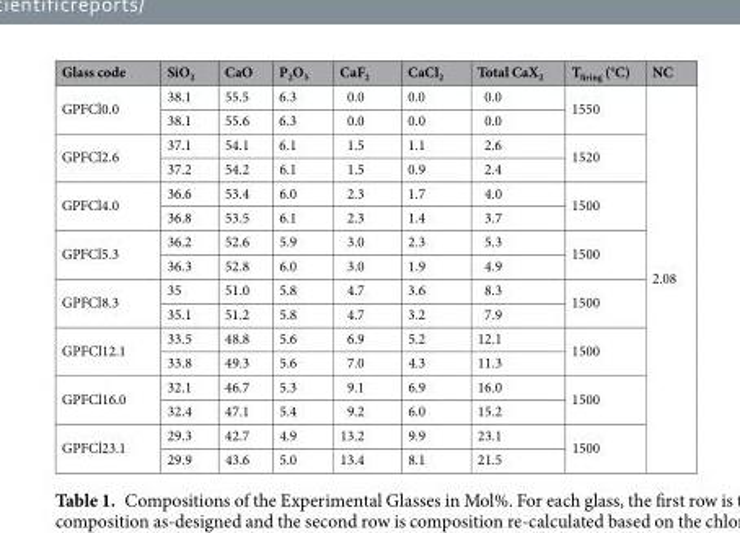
<table><thead><tr><td>Glass code</td><td>SiO<sub>2</sub></td><td>CaO</td><td>P<sub>2</sub>O<sub>5</sub></td><td>CaF<sub>2</sub></td><td>CaCl<sub>2</sub></td><td>Total CaX<sub>2</sub></td><td>T<sub>firing</sub> (°C)</td><td>NC</td></tr></thead><tbody><tr><td rowspan="2">GPFCl0.0</td><td>38.1</td><td>55.5</td><td>6.3</td><td>0.0</td><td>0.0</td><td>0.0</td><td rowspan="2">1550</td><td rowspan="16">2.08</td></tr><tr><td>38.1</td><td>55.6</td><td>6.3</td><td>0.0</td><td>0.0</td><td>0.0</td></tr><tr><td rowspan="2">GPFCl2.6</td><td>37.1</td><td>54.1</td><td>6.1</td><td>1.5</td><td>1.1</td><td>2.6</td><td rowspan="2">1520</td></tr><tr><td>37.2</td><td>54.2</td><td>6.1</td><td>1.5</td><td>0.9</td><td>2.4</td></tr><tr><td rowspan="2">GPFCl4.0</td><td>36.6</td><td>53.4</td><td>6.0</td><td>2.3</td><td>1.7</td><td>4.0</td><td rowspan="2">1500</td></tr><tr><td>36.8</td><td>53.5</td><td>6.1</td><td>2.3</td><td>1.4</td><td>3.7</td></tr><tr><td rowspan="2">GPFCl5.3</td><td>36.2</td><td>52.6</td><td>5.9</td><td>3.0</td><td>2.3</td><td>5.3</td><td rowspan="2">1500</td></tr><tr><td>36.3</td><td>52.8</td><td>6.0</td><td>3.0</td><td>1.9</td><td>4.9</td></tr><tr><td rowspan="2">GPFCl8.3</td><td>35</td><td>51.0</td><td>5.8</td><td>4.7</td><td>3.6</td><td>8.3</td><td rowspan="2">1500</td></tr><tr><td>35.1</td><td>51.2</td><td>5.8</td><td>4.7</td><td>3.2</td><td>7.9</td></tr><tr><td rowspan="2">GPFCl12.1</td><td>33.5</td><td>48.8</td><td>5.6</td><td>6.9</td><td>5.2</td><td>12.1</td><td rowspan="2">1500</td></tr><tr><td>33.8</td><td>49.3</td><td>5.6</td><td>7.0</td><td>4.3</td><td>11.3</td></tr><tr><td rowspan="2">GPFCl16.0</td><td>32.1</td><td>46.7</td><td>5.3</td><td>9.1</td><td>6.9</td><td>16.0</td><td rowspan="2">1500</td></tr><tr><td>32.4</td><td>47.1</td><td>5.4</td><td>9.2</td><td>6.0</td><td>15.2</td></tr><tr><td rowspan="2">GPFCl23.1</td><td>29.3</td><td>42.7</td><td>4.9</td><td>13.2</td><td>9.9</td><td>23.1</td><td rowspan="2">1500</td></tr><tr><td>29.9</td><td>43.6</td><td>5.0</td><td>13.4</td><td>8.1</td><td>21.5</td></tr></tbody></table>